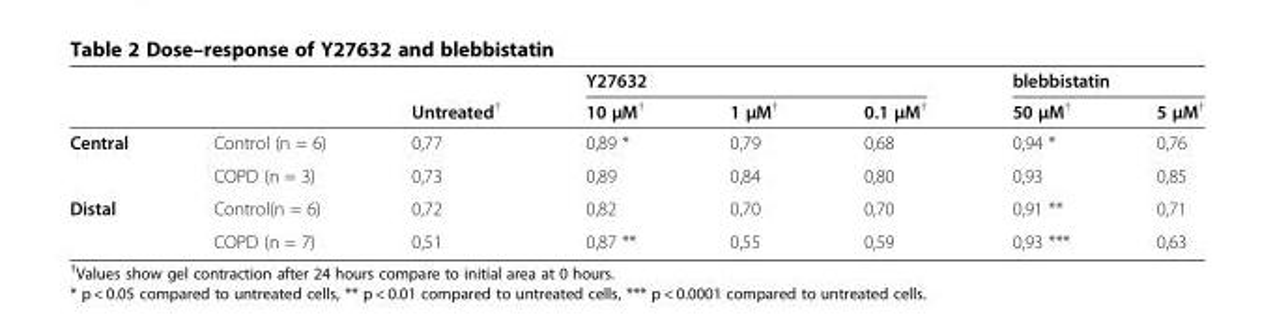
<table><thead><tr><td rowspan="2"></td><td rowspan="2"></td><td rowspan="2">Untreated<sup>†</sup></td><td colspan="3">Y27632</td><td colspan="2">blebbistatin</td></tr><tr><td>10 μM<sup>†</sup></td><td>1 μM<sup>†</sup></td><td>0.1 μM<sup>†</sup></td><td>50 μM<sup>†</sup></td><td>5 μM<sup>†</sup></td></tr></thead><tbody><tr><td rowspan="2">Central</td><td>Control (n = 6)</td><td>0,77</td><td>0,89 *</td><td>0,79</td><td>0,68</td><td>0,94 *</td><td>0,76</td></tr><tr><td>COPD (n = 3)</td><td>0,73</td><td>0,89</td><td>0,84</td><td>0,80</td><td>0,93</td><td>0,85</td></tr><tr><td rowspan="2">Distal</td><td>Control(n = 6)</td><td>0,72</td><td>0,82</td><td>0,70</td><td>0,70</td><td>0,91 **</td><td>0,71</td></tr><tr><td>COPD (n = 7)</td><td>0,51</td><td>0,87 **</td><td>0,55</td><td>0,59</td><td>0,93 ***</td><td>0,63</td></tr></tbody></table>